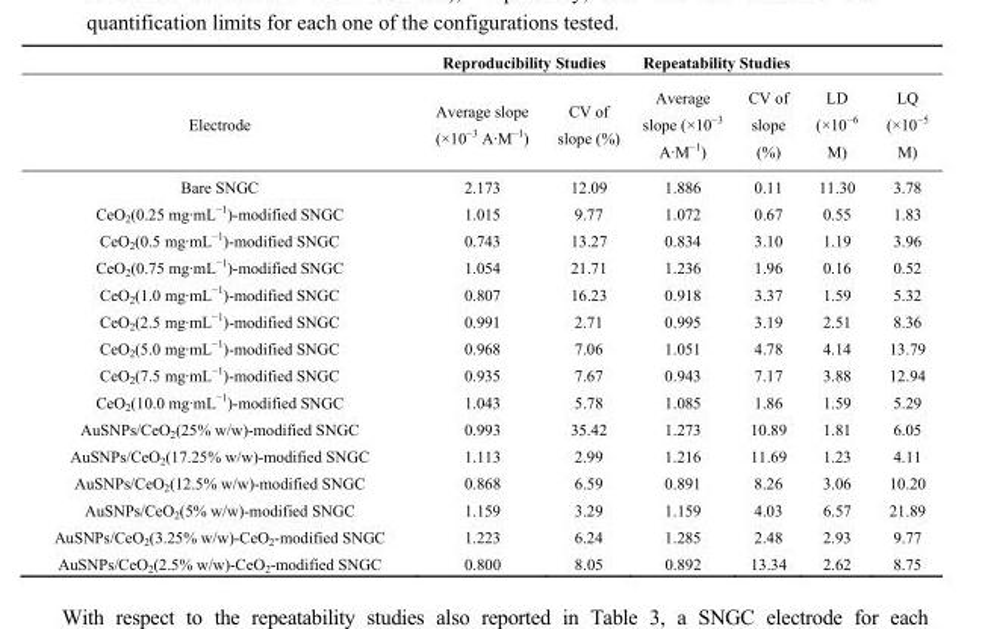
<table><thead><tr><td rowspan="2">Electrode</td><td colspan="2">Reproducibility Studies</td><td colspan="4">Repeatability Studies</td></tr><tr><td>Average slope (×10<sup>−3</sup> A·M<sup>−1</sup>)</td><td>CV of slope (%)</td><td>Average slope (×10<sup>−3</sup> A·M<sup>−1</sup>)</td><td>CV of slope (%)</td><td>LD (×10<sup>−6</sup> M)</td><td>LQ (×10<sup>−5</sup> M)</td></tr></thead><tbody><tr><td>Bare SNGC</td><td>2.173</td><td>12.09</td><td>1.886</td><td>0.11</td><td>11.30</td><td>3.78</td></tr><tr><td>CeO<sub>2</sub>(0.25 mg·mL<sup>−1</sup>)-modified SNGC</td><td>1.015</td><td>9.77</td><td>1.072</td><td>0.67</td><td>0.55</td><td>1.83</td></tr><tr><td>CeO<sub>2</sub>(0.5 mg·mL<sup>−1</sup>)-modified SNGC</td><td>0.743</td><td>13.27</td><td>0.834</td><td>3.10</td><td>1.19</td><td>3.96</td></tr><tr><td>CeO<sub>2</sub>(0.75 mg·mL<sup>−1</sup>)-modified SNGC</td><td>1.054</td><td>21.71</td><td>1.236</td><td>1.96</td><td>0.16</td><td>0.52</td></tr><tr><td>CeO<sub>2</sub>(1.0 mg·mL<sup>−1</sup>)-modified SNGC</td><td>0.807</td><td>16.23</td><td>0.918</td><td>3.37</td><td>1.59</td><td>5.32</td></tr><tr><td>CeO<sub>2</sub>(2.5 mg·mL<sup>−1</sup>)-modified SNGC</td><td>0.991</td><td>2.71</td><td>0.995</td><td>3.19</td><td>2.51</td><td>8.36</td></tr><tr><td>CeO<sub>2</sub>(5.0 mg·mL<sup>−1</sup>)-modified SNGC</td><td>0.968</td><td>7.06</td><td>1.051</td><td>4.78</td><td>4.14</td><td>13.79</td></tr><tr><td>CeO<sub>2</sub>(7.5 mg·mL<sup>−1</sup>)-modified SNGC</td><td>0.935</td><td>7.67</td><td>0.943</td><td>7.17</td><td>3.88</td><td>12.94</td></tr><tr><td>CeO<sub>2</sub>(10.0 mg·mL<sup>−1</sup>)-modified SNGC</td><td>1.043</td><td>5.78</td><td>1.085</td><td>1.86</td><td>1.59</td><td>5.29</td></tr><tr><td>AuSNPs/CeO<sub>2</sub>(25% w/w)-modified SNGC</td><td>0.993</td><td>35.42</td><td>1.273</td><td>10.89</td><td>1.81</td><td>6.05</td></tr><tr><td>AuSNPs/CeO<sub>2</sub>(17.25% w/w)-modified SNGC</td><td>1.113</td><td>2.99</td><td>1.216</td><td>11.69</td><td>1.23</td><td>4.11</td></tr><tr><td>AuSNPs/CeO<sub>2</sub>(12.5% w/w)-modified SNGC</td><td>0.868</td><td>6.59</td><td>0.891</td><td>8.26</td><td>3.06</td><td>10.20</td></tr><tr><td>AuSNPs/CeO<sub>2</sub>(5% w/w)-modified SNGC</td><td>1.159</td><td>3.29</td><td>1.159</td><td>4.03</td><td>6.57</td><td>21.89</td></tr><tr><td>AuSNPs/CeO<sub>2</sub>(3.25% w/w)-CeO<sub>2</sub>-modified SNGC</td><td>1.223</td><td>6.24</td><td>1.285</td><td>2.48</td><td>2.93</td><td>9.77</td></tr><tr><td>AuSNPs/CeO<sub>2</sub>(2.5% w/w)-CeO<sub>2</sub>-modified SNGC</td><td>0.800</td><td>8.05</td><td>0.892</td><td>13.34</td><td>2.62</td><td>8.75</td></tr></tbody></table>